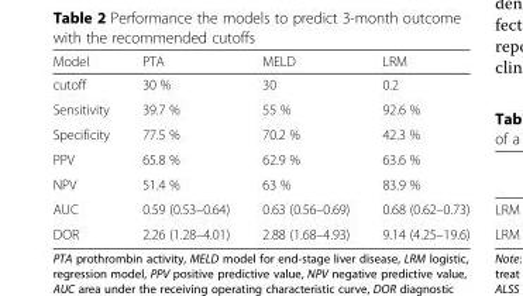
<table><thead><tr><td>Model</td><td>PTA</td><td>MELD</td><td>LRM</td></tr></thead><tbody><tr><td>cutoff</td><td>30 %</td><td>30</td><td>0.2</td></tr><tr><td>Sensitivity</td><td>39.7 %</td><td>55 %</td><td>92.6 %</td></tr><tr><td>Specificity</td><td>77.5 %</td><td>70.2 %</td><td>42.3 %</td></tr><tr><td>PPV</td><td>65.8 %</td><td>62.9 %</td><td>63.6 %</td></tr><tr><td>NPV</td><td>51.4 %</td><td>63 %</td><td>83.9 %</td></tr><tr><td>AUC</td><td>0.59 (0.53–0.64)</td><td>0.63 (0.56–0.69)</td><td>0.68 (0.62–0.73)</td></tr><tr><td>DOR</td><td>2.26 (1.28–4.01)</td><td>2.88 (1.68–4.93)</td><td>9.14 (4.25–19.6)</td></tr></tbody></table>